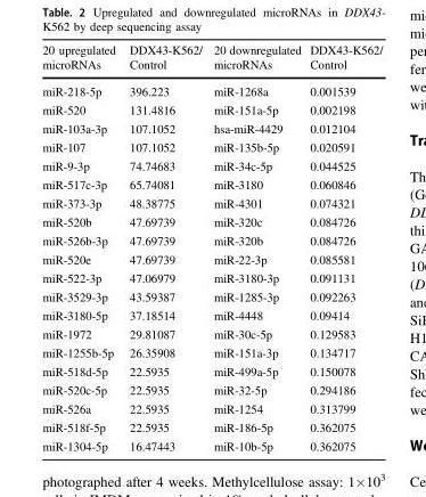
<table><thead><tr><td>20 upregulated microRNAs</td><td>DDX43-K562/ Control</td><td>20 downregulated microRNAs</td><td>DDX43-K562/ Control</td></tr></thead><tbody><tr><td>miR-218-5p</td><td>396.223</td><td>miR-1268a</td><td>0.001539</td></tr><tr><td>miR-520</td><td>131.4816</td><td>miR-151a-5p</td><td>0.002198</td></tr><tr><td>miR-103a-3p</td><td>107.1052</td><td>hsa-miR-4429</td><td>0.012104</td></tr><tr><td>miR-107</td><td>107.1052</td><td>miR-135b-5p</td><td>0.020591</td></tr><tr><td>miR-9-3p</td><td>74.74683</td><td>miR-34c-5p</td><td>0.044525</td></tr><tr><td>miR-517c-3p</td><td>65.74081</td><td>miR-3180</td><td>0.060846</td></tr><tr><td>miR-373-3p</td><td>48.38775</td><td>miR-4301</td><td>0.074321</td></tr><tr><td>miR-520b</td><td>47.69739</td><td>miR-320c</td><td>0.084726</td></tr><tr><td>miR-526b-3p</td><td>47.69739</td><td>miR-320b</td><td>0.084726</td></tr><tr><td>miR-520e</td><td>47.69739</td><td>miR-22-3p</td><td>0.085581</td></tr><tr><td>miR-522-3p</td><td>47.06979</td><td>miR-3180-3p</td><td>0.091131</td></tr><tr><td>miR-3529-3p</td><td>43.59387</td><td>miR-1285-3p</td><td>0.092263</td></tr><tr><td>miR-3180-5p</td><td>37.18514</td><td>miR-4448</td><td>0.09414</td></tr><tr><td>miR-1972</td><td>29.81087</td><td>miR-30c-5p</td><td>0.129583</td></tr><tr><td>miR-1255b-5p</td><td>26.35908</td><td>miR-151a-3p</td><td>0.134717</td></tr><tr><td>miR-518d-5p</td><td>22.5935</td><td>miR-499a-5p</td><td>0.150078</td></tr><tr><td>miR-520c-5p</td><td>22.5935</td><td>miR-32-5p</td><td>0.294186</td></tr><tr><td>miR-526a</td><td>22.5935</td><td>miR-1254</td><td>0.313799</td></tr><tr><td>miR-518f-5p</td><td>22.5935</td><td>miR-186-5p</td><td>0.362075</td></tr><tr><td>miR-1304-5p</td><td>16.47443</td><td>miR-10b-5p</td><td>0.362075</td></tr></tbody></table>